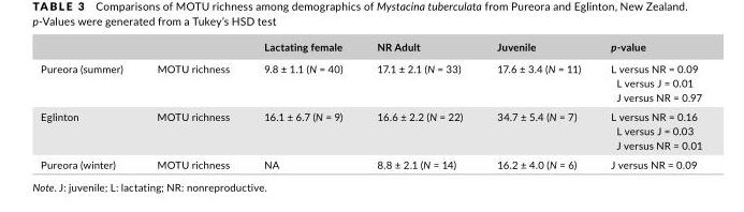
<table><thead><tr><td></td><td></td><td>Lactating female</td><td>NR Adult</td><td>Juvenile</td><td>p- value</td></tr></thead><tbody><tr><td>Pureora (summer)</td><td>MOTU richness</td><td>9.8 ± 1.1 (N = 40)</td><td>17.1 ± 2.1 (N = 33)</td><td>17.6 ± 3.4 (N = 11)</td><td>L versus NR = 0.09 L versus J = 0.01 J versus NR = 0.97</td></tr><tr><td>Eglinton</td><td>MOTU richness</td><td>16.1 ± 6.7 (N = 9)</td><td>16.6 ± 2.2 (N = 22)</td><td>34.7 ± 5.4 (N = 7)</td><td>L versus NR = 0.16 L versus J = 0.03 J versus NR = 0.01</td></tr><tr><td>Pureora (winter)</td><td>MOTU richness</td><td>NA</td><td>8.8 ± 2.1 (N = 14)</td><td>16.2 ± 4.0 (N = 6)</td><td>J versus NR = 0.09</td></tr></tbody></table>